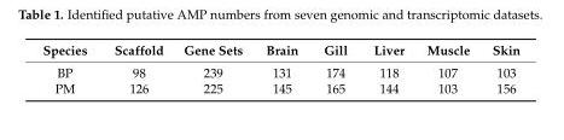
<table><thead><tr><td>Species</td><td>Scaffold</td><td>Gene Sets</td><td>Brain</td><td>Gill</td><td>Liver</td><td>Muscle</td><td>Skin</td></tr></thead><tbody><tr><td>BP</td><td>98</td><td>239</td><td>131</td><td>174</td><td>118</td><td>107</td><td>103</td></tr><tr><td>PM</td><td>126</td><td>225</td><td>145</td><td>165</td><td>144</td><td>103</td><td>156</td></tr></tbody></table>